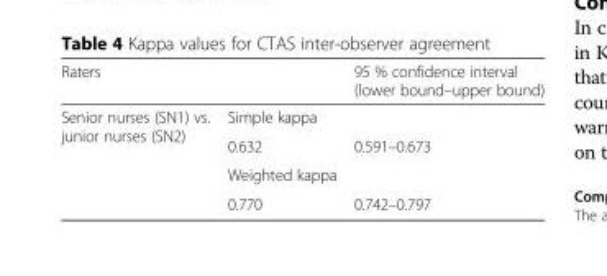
<table><thead><tr><td>Raters</td><td></td><td>95 % confidence interval (lower bound–upper bound)</td></tr></thead><tbody><tr><td rowspan="4">Senior nurses (SN1) vs. junior nurses (SN2)</td><td>Simple kappa</td><td></td></tr><tr><td>0.632</td><td>0.591–0.673</td></tr><tr><td>Weighted kappa</td><td></td></tr><tr><td>0.770</td><td>0.742–0.797</td></tr></tbody></table>